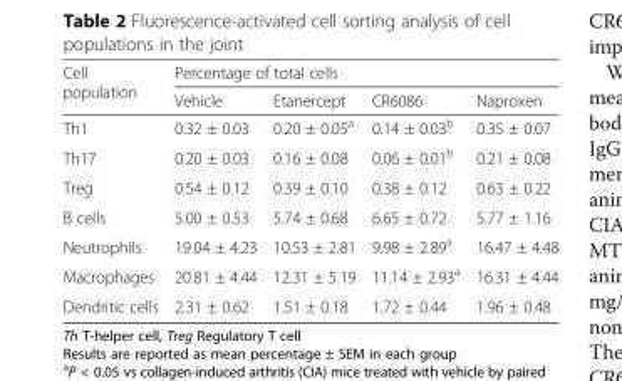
<table><thead><tr><td rowspan="2">Cell population</td><td colspan="4">Percentage of total cells</td></tr><tr><td>Vehicle</td><td>Etanercept</td><td>CR6086</td><td>Naproxen</td></tr></thead><tbody><tr><td>Th1</td><td>0.32 ± 0.03</td><td>0.20 ± 0.05<sup>a</sup></td><td>0.14 ± 0.03<sup>b</sup></td><td>0.35 ± 0.07</td></tr><tr><td>Th17</td><td>0.20 ± 0.03</td><td>0.16 ± 0.08</td><td>0.06 ± 0.01<sup>b</sup></td><td>0.21 ± 0.08</td></tr><tr><td>Treg</td><td>0.54 ± 0.12</td><td>0.39 ± 0.10</td><td>0.38 ± 0.12</td><td>0.63 ± 0.22</td></tr><tr><td>B cells</td><td>5.00 ± 0.53</td><td>5.74 ± 0.68</td><td>6.65 ± 0.72</td><td>5.77 ± 1.16</td></tr><tr><td>Neutrophils</td><td>19.04 ± 4.23</td><td>10.53 ± 2.81</td><td>9.98 ± 2.89<sup>a</sup></td><td>16.47 ± 4.48</td></tr><tr><td>Macrophages</td><td>20.81 ± 4.44</td><td>12.31 ± 5.19</td><td>11.14 ± 2.93<sup>a</sup></td><td>16.31 ± 4.44</td></tr><tr><td>Dendritic cells</td><td>2.31 ± 0.62</td><td>1.51 ± 0.18</td><td>1.72 ± 0.44</td><td>1.96 ± 0.48</td></tr></tbody></table>